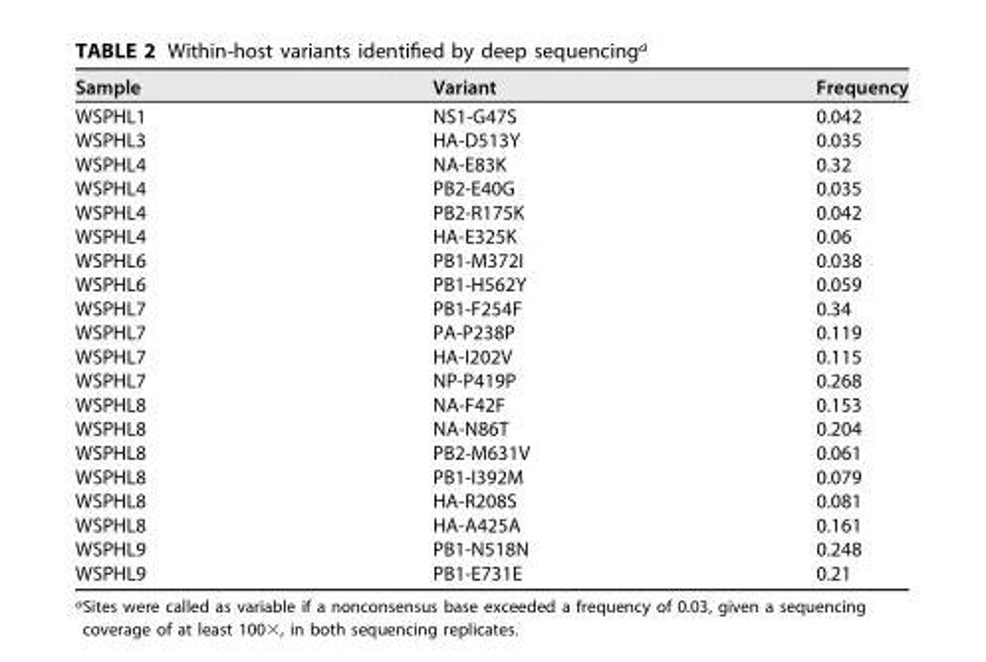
<table><thead><tr><td>Sample</td><td>Variant</td><td>Frequency</td></tr></thead><tbody><tr><td>WSPHL1</td><td>NS1-G47S</td><td>0.042</td></tr><tr><td>WSPHL3</td><td>HA-D513Y</td><td>0.035</td></tr><tr><td>WSPHL4</td><td>NA-E83K</td><td>0.32</td></tr><tr><td>WSPHL4</td><td>PB2-E40G</td><td>0.035</td></tr><tr><td>WSPHL4</td><td>PB2-R175K</td><td>0.042</td></tr><tr><td>WSPHL4</td><td>HA-E325K</td><td>0.06</td></tr><tr><td>WSPHL6</td><td>PB1-M372I</td><td>0.038</td></tr><tr><td>WSPHL6</td><td>PB1-H562Y</td><td>0.059</td></tr><tr><td>WSPHL7</td><td>PB1-F254F</td><td>0.34</td></tr><tr><td>WSPHL7</td><td>PA-P238P</td><td>0.119</td></tr><tr><td>WSPHL7</td><td>HA-I202V</td><td>0.115</td></tr><tr><td>WSPHL7</td><td>NP-P419P</td><td>0.268</td></tr><tr><td>WSPHL8</td><td>NA-F42F</td><td>0.153</td></tr><tr><td>WSPHL8</td><td>NA-N86T</td><td>0.204</td></tr><tr><td>WSPHL8</td><td>PB2-M631V</td><td>0.061</td></tr><tr><td>WSPHL8</td><td>PB1-I392M</td><td>0.079</td></tr><tr><td>WSPHL8</td><td>HA-R208S</td><td>0.081</td></tr><tr><td>WSPHL8</td><td>HA-A425A</td><td>0.161</td></tr><tr><td>WSPHL9</td><td>PB1-N518N</td><td>0.248</td></tr><tr><td>WSPHL9</td><td>PB1-E731E</td><td>0.21</td></tr></tbody></table>